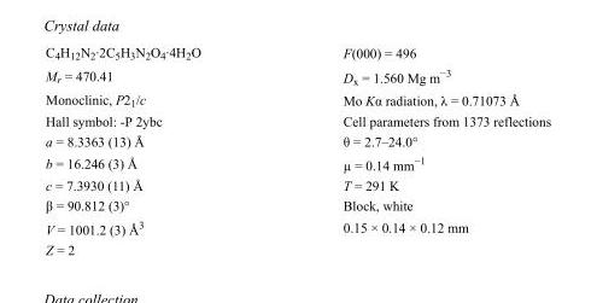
<table><tbody><tr><td>C<sub>4</sub>H<sub>12</sub>N<sub>2</sub>·2C<sub>5</sub>H<sub>3</sub>N<sub>2</sub>O<sub>4</sub>·4H<sub>2</sub>O</td><td>F(000) = 496</td></tr><tr><td>M<sub>r</sub> = 470.41</td><td>D<sub>x</sub> = 1.560 Mg m<sup>−3</sup></td></tr><tr><td>Monoclinic, P2<sub>1</sub>/c</td><td>Mo Kα radiation, λ = 0.71073 Å</td></tr><tr><td>Hall symbol: -P 2ybc</td><td>Cell parameters from 1373 reflections</td></tr><tr><td>a = 8.3363 (13) Å</td><td>θ = 2.7–24.0°</td></tr><tr><td>b = 16.246 (3) Å</td><td>µ = 0.14 mm<sup>−1</sup></td></tr><tr><td>c = 7.3930 (11) Å</td><td>T = 291 K</td></tr><tr><td>β = 90.812 (3)°</td><td>Block, white</td></tr><tr><td>V = 1001.2 (3) Å<sup>3</sup></td><td>0.15 × 0.14 × 0.12 mm</td></tr><tr><td>Z = 2</td><td></td></tr></tbody></table>